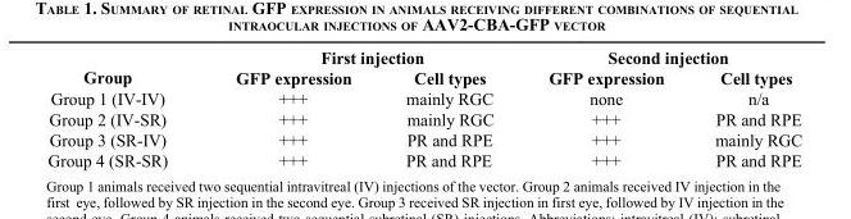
<table><thead><tr><td rowspan="2">Group</td><td colspan="2">First injection</td><td colspan="2">Second injection</td></tr><tr><td>GFP expression</td><td>Cell types</td><td>GFP expression</td><td>Cell types</td></tr></thead><tbody><tr><td>Group 1 (IV-IV)</td><td>+++</td><td>mainly RGC</td><td>none</td><td>n/a</td></tr><tr><td>Group 2 (IV-SR)</td><td>+++</td><td>mainly RGC</td><td>+++</td><td>PR and RPE</td></tr><tr><td>Group 3 (SR-IV)</td><td>+++</td><td>PR and RPE</td><td>+++</td><td>mainly RGC</td></tr><tr><td>Group 4 (SR-SR)</td><td>+++</td><td>PR and RPE</td><td>+++</td><td>PR and RPE</td></tr></tbody></table>